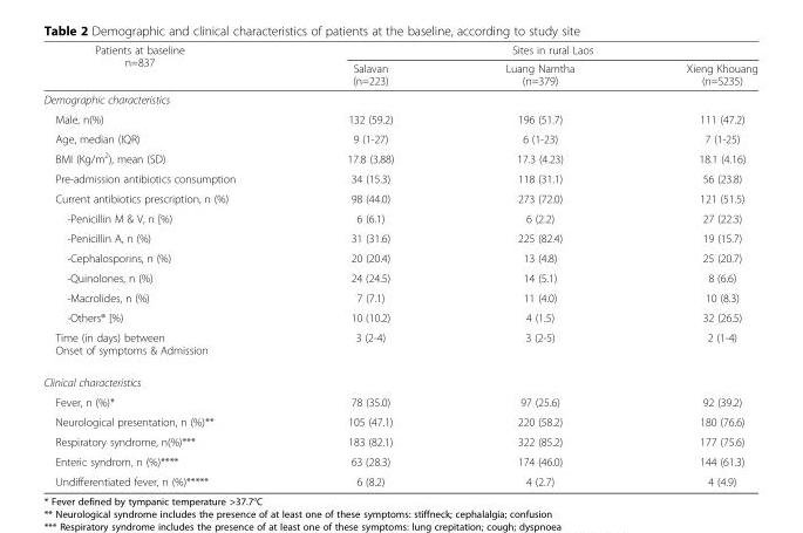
<table><thead><tr><td rowspan="2">Patients at baseline n=837</td><td colspan="3">Sites in rural Laos</td></tr><tr><td>Salavan (n=223)</td><td>Luang Namtha (n=379)</td><td>Xieng Khouang (n=S235)</td></tr></thead><tbody><tr><td colspan="4">Demographic characteristics</td></tr><tr><td>Male, n(%)</td><td>132 (59.2)</td><td>196 (51.7)</td><td>111 (47.2)</td></tr><tr><td>Age, median (IQR)</td><td>9 (1-27)</td><td>6 (1-23)</td><td>7 (1-25)</td></tr><tr><td>BMI (Kg/m<sup>2</sup>), mean (SD)</td><td>17.8 (3.88)</td><td>17.3 (4.23)</td><td>18.1 (4.16)</td></tr><tr><td>Pre-admission antibiotics consumption</td><td>34 (15.3)</td><td>118 (31.1)</td><td>56 (23.8)</td></tr><tr><td>Current antibiotics prescription, n (%)</td><td>98 (44.0)</td><td>273 (72.0)</td><td>121 (51.5)</td></tr><tr><td>-Penicillin M &amp; V, n [%)</td><td>6 (6.1)</td><td>6 (2.2)</td><td>27 (22.3)</td></tr><tr><td>-Penicillin A, n (%)</td><td>31 (31.6)</td><td>225 (82.4)</td><td>19 (15.7)</td></tr><tr><td>-Cephalosporins, n (%)</td><td>20 (20.4)</td><td>13 (4.8)</td><td>25 (20.7)</td></tr><tr><td>-Quinolones, n (%)</td><td>24 (24.5)</td><td>14 (5.1)</td><td>8 (6.6)</td></tr><tr><td>-Macrolides, n (%)</td><td>7 (7.1)</td><td>11 (4.0)</td><td>10 (8.3)</td></tr><tr><td>-Others® [%)</td><td>10 (10.2)</td><td>4 (1.5)</td><td>32 (26.5)</td></tr><tr><td>Time (in days) between Onset of symptoms &amp; Admission</td><td>3 (2-4)</td><td>3 (2-5)</td><td>2 (1-4)</td></tr><tr><td colspan="4">Clinical characteristics</td></tr><tr><td>Fever, n (%)*</td><td>78 (35.0)</td><td>97 (25.6)</td><td>92 (39.2)</td></tr><tr><td>Neurological presentation, n (%)**</td><td>105 (47.1)</td><td>220 (58.2)</td><td>180 (76.6)</td></tr><tr><td>Respiratory syndrome, n(%)***</td><td>183 (82.1)</td><td>322 (85.2)</td><td>177 (75.6)</td></tr><tr><td>Enteric syndrom, n (%)****</td><td>63 (28.3)</td><td>174 (46.0)</td><td>144 (61.3)</td></tr><tr><td>Undifferentiated fever, n (%)*****</td><td>6 (8.2)</td><td>4 (2.7)</td><td>4 (4.9)</td></tr></tbody></table>